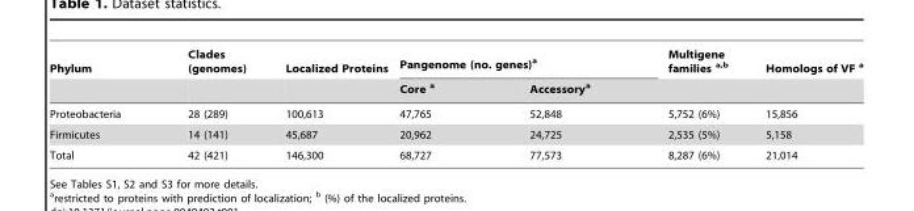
<table><thead><tr><td rowspan="2">Phylum</td><td rowspan="2">Clades (genomes)</td><td rowspan="2">Localized Proteins</td><td colspan="2">Pangenome (no. genes)<sup>a</sup></td><td rowspan="2">Multigene families a,b</td><td rowspan="2">Homologs of VF a</td></tr><tr><td>Core a</td><td>Accessory<sup>a</sup></td></tr></thead><tbody><tr><td>Proteobacteria</td><td>28 (289)</td><td>100,613</td><td>47,765</td><td>52,848</td><td>5,752 (6%)</td><td>15,856</td></tr><tr><td>Firmicutes</td><td>14 (141)</td><td>45,687</td><td>20,962</td><td>24,725</td><td>2,535 (5%)</td><td>5,158</td></tr><tr><td>Total</td><td>42 (421)</td><td>146,300</td><td>68,727</td><td>77,573</td><td>8,287 (6%)</td><td>21,014</td></tr></tbody></table>